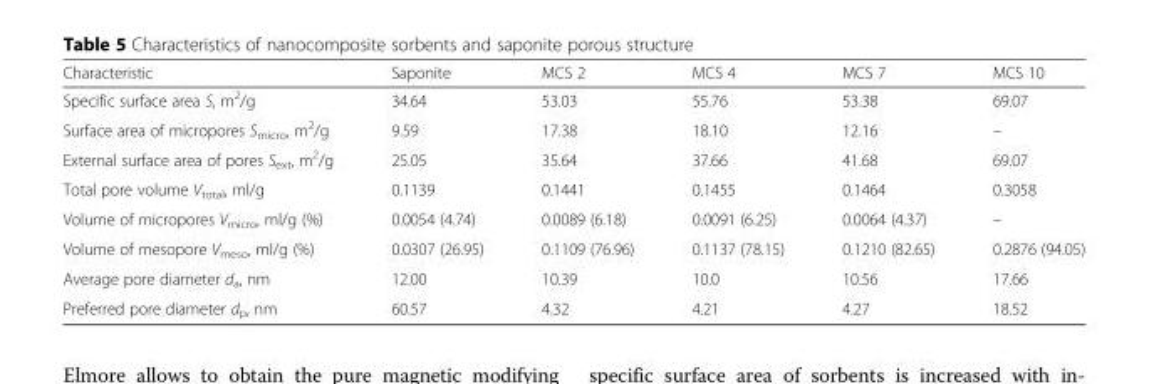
<table><thead><tr><td>Characteristic</td><td>Saponite</td><td>MCS 2</td><td>MCS 4</td><td>MCS 7</td><td>MCS 10</td></tr></thead><tbody><tr><td>Specific surface area S, m<sup>2</sup>/g</td><td>34.64</td><td>53.03</td><td>55.76</td><td>53.38</td><td>69.07</td></tr><tr><td>Surface area of micropores S<sub>micro</sub>, m<sup>2</sup>/g</td><td>9.59</td><td>17.38</td><td>18.10</td><td>12.16</td><td>–</td></tr><tr><td>External surface area of pores S<sub>ext</sub>, m<sup>2</sup>/g</td><td>25.05</td><td>35.64</td><td>37.66</td><td>41.68</td><td>69.07</td></tr><tr><td>Total pore volume V<sub>total</sub>, ml/g</td><td>0.1139</td><td>0.1441</td><td>0.1455</td><td>0.1464</td><td>0.3058</td></tr><tr><td>Volume of micropores V<sub>micro</sub>, ml/g (%)</td><td>0.0054 (4.74)</td><td>0.0089 (6.18)</td><td>0.0091 (6.25)</td><td>0.0064 (4.37)</td><td>–</td></tr><tr><td>Volume of mesopore V<sub>meso</sub>, ml/g (%)</td><td>0.0307 (26.95)</td><td>0.1109 (76.96)</td><td>0.1137 (78.15)</td><td>0.1210 (82.65)</td><td>0.2876 (94.05)</td></tr><tr><td>Average pore diameter d<sub>a</sub>, nm</td><td>12.00</td><td>10.39</td><td>10.0</td><td>10.56</td><td>17.66</td></tr><tr><td>Preferred pore diameter d<sub>p</sub>, nm</td><td>60.57</td><td>4.32</td><td>4.21</td><td>4.27</td><td>18.52</td></tr></tbody></table>